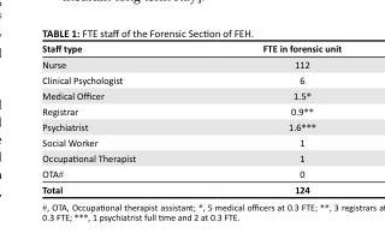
<table><thead><tr><td>Staff type</td><td>FTE in forensic unit</td></tr></thead><tbody><tr><td>Nurse</td><td>112</td></tr><tr><td>Clinical Psychologist</td><td>6</td></tr><tr><td>Medical Officer</td><td>1.5*</td></tr><tr><td>Registrar</td><td>0.9**</td></tr><tr><td>Psychiatrist</td><td>1.6***</td></tr><tr><td>Social Worker</td><td>1</td></tr><tr><td>Occupational Therapist</td><td>1</td></tr><tr><td>OTA#</td><td>0</td></tr><tr><td>Total</td><td>124</td></tr></tbody></table>